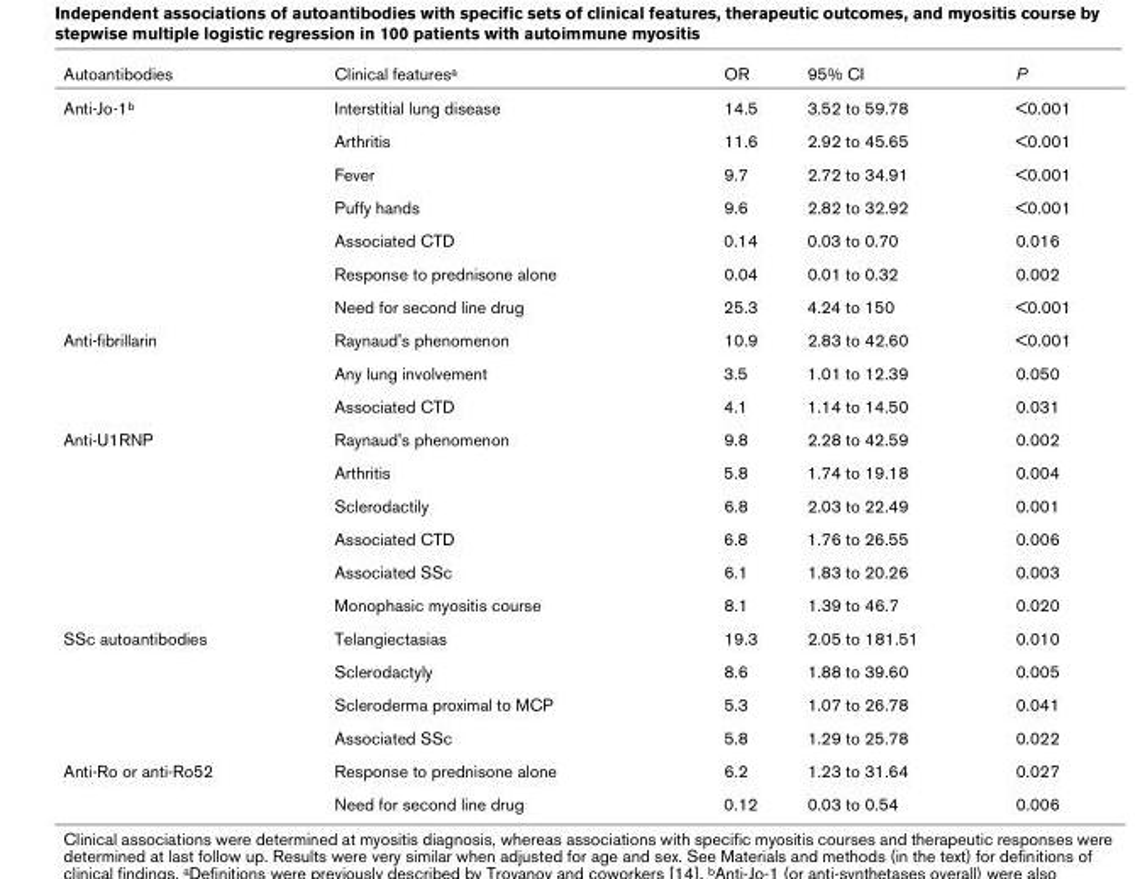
<table><thead><tr><td>Autoantibodies</td><td>Clinical features<sup>a</sup></td><td>OR</td><td>95% CI</td><td>P</td></tr></thead><tbody><tr><td rowspan="7">Anti-Jo-1<sup>b</sup></td><td>Interstitial lung disease</td><td>14.5</td><td>3.52 to 59.78</td><td>&lt;0.001</td></tr><tr><td>Arthritis</td><td>11.6</td><td>2.92 to 45.65</td><td>&lt;0.001</td></tr><tr><td>Fever</td><td>9.7</td><td>2.72 to 34.91</td><td>&lt;0.001</td></tr><tr><td>Puffy hands</td><td>9.6</td><td>2.82 to 32.92</td><td>&lt;0.001</td></tr><tr><td>Associated CTD</td><td>0.14</td><td>0.03 to 0.70</td><td>0.016</td></tr><tr><td>Response to prednisone alone</td><td>0.04</td><td>0.01 to 0.32</td><td>0.002</td></tr><tr><td>Need for second line drug</td><td>25.3</td><td>4.24 to 150</td><td>&lt;0.001</td></tr><tr><td rowspan="3">Anti-fibrillarin</td><td>Raynaud&#x27;s phenomenon</td><td>10.9</td><td>2.83 to 42.60</td><td>&lt;0.001</td></tr><tr><td>Any lung involvement</td><td>3.5</td><td>1.01 to 12.39</td><td>0.050</td></tr><tr><td>Associated CTD</td><td>4.1</td><td>1.14 to 14.50</td><td>0.031</td></tr><tr><td rowspan="6">Anti-U1RNP</td><td>Raynaud&#x27;s phenomenon</td><td>9.8</td><td>2.28 to 42.59</td><td>0.002</td></tr><tr><td>Arthritis</td><td>5.8</td><td>1.74 to 19.18</td><td>0.004</td></tr><tr><td>Sclerodactily</td><td>6.8</td><td>2.03 to 22.49</td><td>0.001</td></tr><tr><td>Associated CTD</td><td>6.8</td><td>1.76 to 26.55</td><td>0.006</td></tr><tr><td>Associated SSc</td><td>6.1</td><td>1.83 to 20.26</td><td>0.003</td></tr><tr><td>Monophasic myositis course</td><td>8.1</td><td>1.39 to 46.7</td><td>0.020</td></tr><tr><td rowspan="4">SSc autoantibodies</td><td>Telangiectasias</td><td>19.3</td><td>2.05 to 181.51</td><td>0.010</td></tr><tr><td>Sclerodactyly</td><td>8.6</td><td>1.88 to 39.60</td><td>0.005</td></tr><tr><td>Scleroderma proximal to MCP</td><td>5.3</td><td>1.07 to 26.78</td><td>0.041</td></tr><tr><td>Associated SSc</td><td>5.8</td><td>1.29 to 25.78</td><td>0.022</td></tr><tr><td rowspan="2">Anti-Ro or anti-Ro52</td><td>Response to prednisone alone</td><td>6.2</td><td>1.23 to 31.64</td><td>0.027</td></tr><tr><td>Need for second line drug</td><td>0.12</td><td>0.03 to 0.54</td><td>0.006</td></tr></tbody></table>